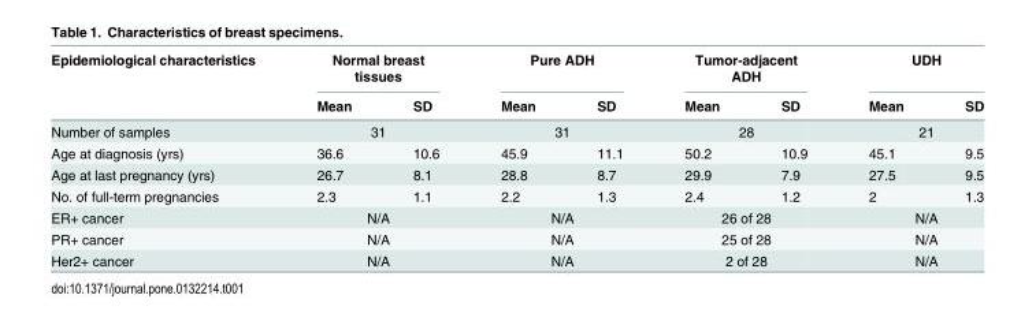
<table><thead><tr><td rowspan="2">Epidemiological characteristics</td><td colspan="2">Normal breast tissues</td><td colspan="2">Pure ADH</td><td colspan="2">Tumor-adjacent ADH</td><td colspan="2">UDH</td></tr><tr><td>Mean</td><td>SD</td><td>Mean</td><td>SD</td><td>Mean</td><td>SD</td><td>Mean</td><td>SD</td></tr></thead><tbody><tr><td>Number of samples</td><td colspan="2">31</td><td colspan="2">31</td><td colspan="2">28</td><td colspan="2">21</td></tr><tr><td>Age at diagnosis (yrs)</td><td>36.6</td><td>10.6</td><td>45.9</td><td>11.1</td><td>50.2</td><td>10.9</td><td>45.1</td><td>9.5</td></tr><tr><td>Age at last pregnancy (yrs)</td><td>26.7</td><td>8.1</td><td>28.8</td><td>8.7</td><td>29.9</td><td>7.9</td><td>27.5</td><td>9.5</td></tr><tr><td>No. of full-term pregnancies</td><td>2.3</td><td>1.1</td><td>2.2</td><td>1.3</td><td>2.4</td><td>1.2</td><td>2</td><td>1.3</td></tr><tr><td>ER+ cancer</td><td colspan="2">N/A</td><td colspan="2">N/A</td><td colspan="2">26 of 28</td><td colspan="2">N/A</td></tr><tr><td>PR+ cancer</td><td colspan="2">N/A</td><td colspan="2">N/A</td><td colspan="2">25 of 28</td><td colspan="2">N/A</td></tr><tr><td>Her2+ cancer</td><td colspan="2">N/A</td><td colspan="2">N/A</td><td colspan="2">2 of 28</td><td colspan="2">N/A</td></tr></tbody></table>